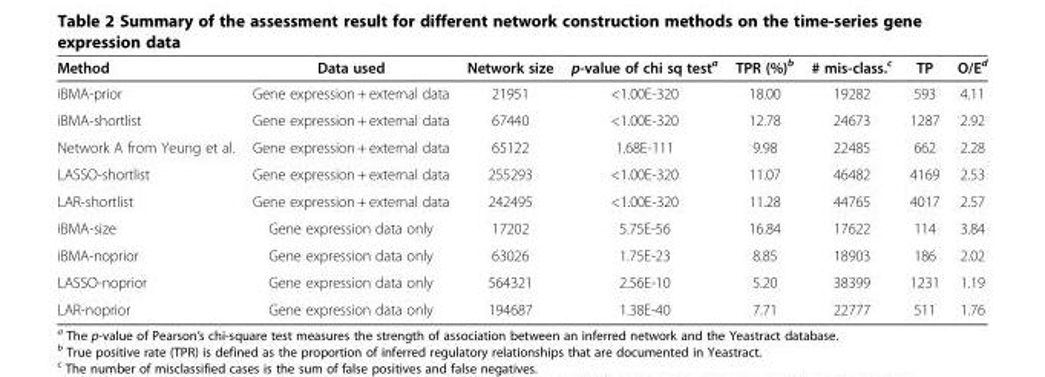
<table><thead><tr><td>Method</td><td>Data used</td><td>Network size</td><td>p-value of chi sq test<sup>a</sup></td><td>TPR (%)<sup>b</sup></td><td># mis-class.<sup>c</sup></td><td>TP</td><td>O/E<sup>d</sup></td></tr></thead><tbody><tr><td>iBMA-prior</td><td>Gene expression + external data</td><td>21951</td><td>&lt;1.00E-320</td><td>18.00</td><td>19282</td><td>593</td><td>4.11</td></tr><tr><td>iBMA-shortlist</td><td>Gene expression + external data</td><td>67440</td><td>&lt;1.00E-320</td><td>12.78</td><td>24673</td><td>1287</td><td>2.92</td></tr><tr><td>Network A from Yeung et al.</td><td>Gene expression + external data</td><td>65122</td><td>1.68E-111</td><td>9.98</td><td>22485</td><td>662</td><td>2.28</td></tr><tr><td>LASSO-shortlist</td><td>Gene expression + external data</td><td>255293</td><td>&lt;1.00E-320</td><td>11.07</td><td>46482</td><td>4169</td><td>2.53</td></tr><tr><td>LAR-shortlist</td><td>Gene expression + external data</td><td>242495</td><td>&lt;1.00E-320</td><td>11.28</td><td>44765</td><td>4017</td><td>2.57</td></tr><tr><td>iBMA-size</td><td>Gene expression data only</td><td>17202</td><td>5.75E-56</td><td>16.84</td><td>17622</td><td>114</td><td>3.84</td></tr><tr><td>iBMA-noprior</td><td>Gene expression data only</td><td>63026</td><td>1.75E-23</td><td>8.85</td><td>18903</td><td>186</td><td>2.02</td></tr><tr><td>LASSO-noprior</td><td>Gene expression data only</td><td>564321</td><td>2.56E-10</td><td>5.20</td><td>38399</td><td>1231</td><td>1.19</td></tr><tr><td>LAR-noprior</td><td>Gene expression data only</td><td>194687</td><td>1.38E-40</td><td>7.71</td><td>22777</td><td>511</td><td>1.76</td></tr></tbody></table>